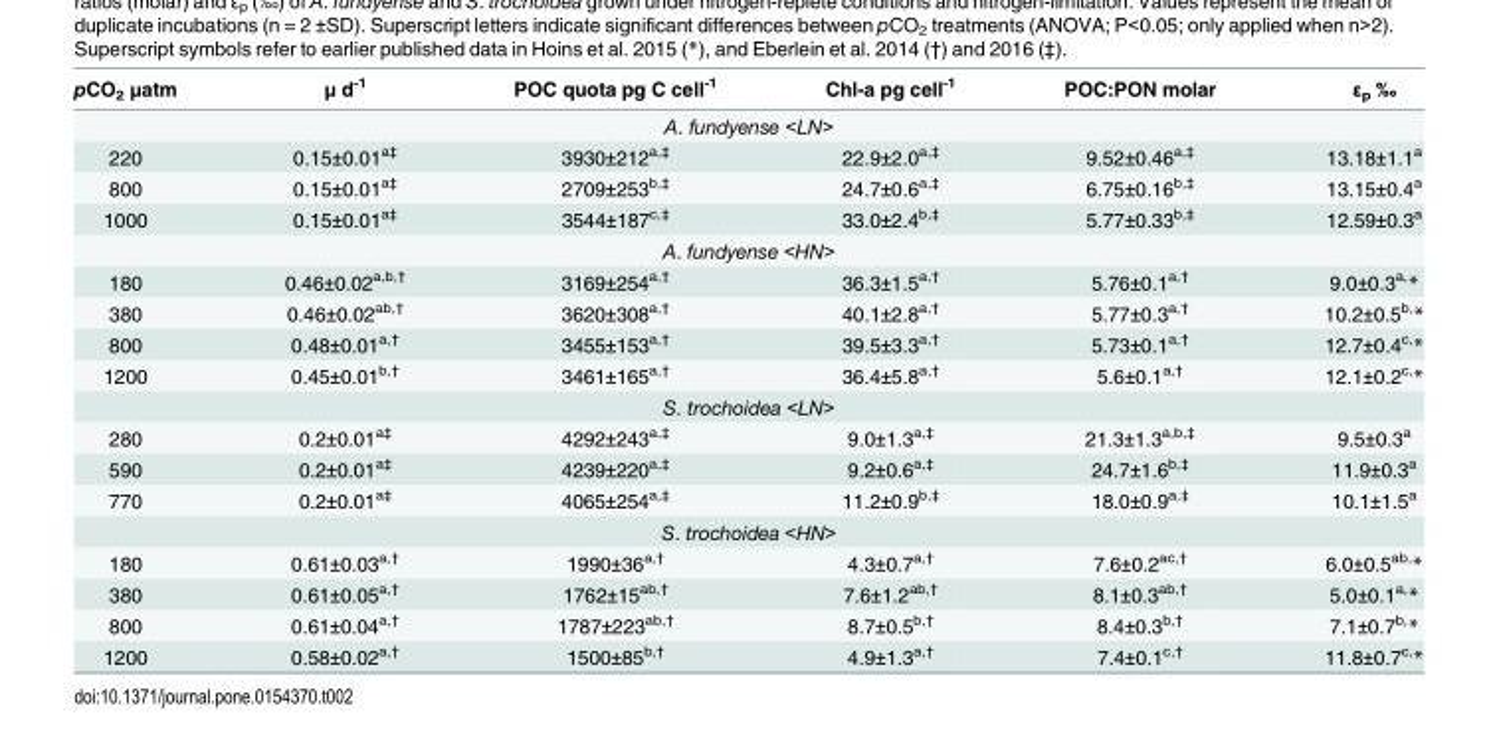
<table><thead><tr><td>pCO<sub>2</sub> μatm</td><td>μ d<sup>-1</sup></td><td>POC quota pg C cell<sup>-1</sup></td><td>Chl-a pg cell<sup>-1</sup></td><td>POC:PON molar</td><td>ε<sub>p</sub> ‰</td></tr></thead><tbody><tr><td colspan="6">A. fundyense &lt;LN&gt;</td></tr><tr><td>220</td><td>0.15±0.01<sup>a‡</sup></td><td>3930±212<sup>a,‡</sup></td><td>22.9±2.0<sup>a,‡</sup></td><td>9.52±0.46<sup>a,‡</sup></td><td>13.18±1.1<sup>a</sup></td></tr><tr><td>800</td><td>0.15±0.01<sup>a‡</sup></td><td>2709±253<sup>b,‡</sup></td><td>24.7±0.6<sup>a,‡</sup></td><td>6.75±0.16<sup>b,‡</sup></td><td>13.15±0.4<sup>a</sup></td></tr><tr><td>1000</td><td>0.15±0.01<sup>a‡</sup></td><td>3544±187<sup>c,‡</sup></td><td>33.0±2.4<sup>b,‡</sup></td><td>5.77±0.33<sup>b,‡</sup></td><td>12.59±0.3<sup>a</sup></td></tr><tr><td colspan="6">A. fundyense &lt;HN&gt;</td></tr><tr><td>180</td><td>0.46±0.02<sup>a,b,†</sup></td><td>3169±254<sup>a,†</sup></td><td>36.3±1.5<sup>a,†</sup></td><td>5.76±0.1<sup>a,†</sup></td><td>9.0±0.3<sup>a,</sup>*</td></tr><tr><td>380</td><td>0.46±0.02<sup>ab,†</sup></td><td>3620±308<sup>a,†</sup></td><td>40.1±2.8<sup>a,†</sup></td><td>5.77±0.3<sup>a,†</sup></td><td>10.2±0.5<sup>b,</sup>*</td></tr><tr><td>800</td><td>0.48±0.01<sup>a,†</sup></td><td>3455±153<sup>a,†</sup></td><td>39.5±3.3<sup>a,†</sup></td><td>5.73±0.1<sup>a,†</sup></td><td>12.7±0.4<sup>c,</sup>*</td></tr><tr><td>1200</td><td>0.45±0.01<sup>b,†</sup></td><td>3461±165<sup>a,†</sup></td><td>36.4±5.8<sup>a,†</sup></td><td>5.6±0.1<sup>a,†</sup></td><td>12.1±0.2<sup>c,</sup>*</td></tr><tr><td colspan="6">S. trochoidea &lt;LN&gt;</td></tr><tr><td>280</td><td>0.2±0.01<sup>a‡</sup></td><td>4292±243<sup>a,‡</sup></td><td>9.0±1.3<sup>a,‡</sup></td><td>21.3±1.3<sup>a,b,‡</sup></td><td>9.5±0.3<sup>a</sup></td></tr><tr><td>590</td><td>0.2±0.01<sup>a‡</sup></td><td>4239±220<sup>a,‡</sup></td><td>9.2±0.6<sup>a,‡</sup></td><td>24.7±1.6<sup>b,‡</sup></td><td>11.9±0.3<sup>a</sup></td></tr><tr><td>770</td><td>0.2±0.01<sup>a‡</sup></td><td>4065±254<sup>a,‡</sup></td><td>11.2±0.9<sup>b,‡</sup></td><td>18.0±0.9<sup>a,‡</sup></td><td>10.1±1.5<sup>a</sup></td></tr><tr><td colspan="6">S. trochoidea &lt;HN&gt;</td></tr><tr><td>180</td><td>0.61±0.03<sup>a,†</sup></td><td>1990±36<sup>a,†</sup></td><td>4.3±0.7<sup>a,†</sup></td><td>7.6±0.2<sup>ac,†</sup></td><td>6.0±0.5<sup>ab,</sup>*</td></tr><tr><td>380</td><td>0.61±0.05<sup>a,†</sup></td><td>1762±15<sup>ab,†</sup></td><td>7.6±1.2<sup>ab,†</sup></td><td>8.1±0.3<sup>ab,†</sup></td><td>5.0±0.1<sup>a,</sup>*</td></tr><tr><td>800</td><td>0.61±0.04<sup>a,†</sup></td><td>1787±223<sup>ab,†</sup></td><td>8.7±0.5<sup>b,†</sup></td><td>8.4±0.3<sup>b,†</sup></td><td>7.1±0.7<sup>b,</sup>*</td></tr><tr><td>1200</td><td>0.58±0.02<sup>a,†</sup></td><td>1500±85<sup>b,†</sup></td><td>4.9±1.3<sup>a,†</sup></td><td>7.4±0.1<sup>c,†</sup></td><td>11.8±0.7<sup>c,</sup>*</td></tr></tbody></table>